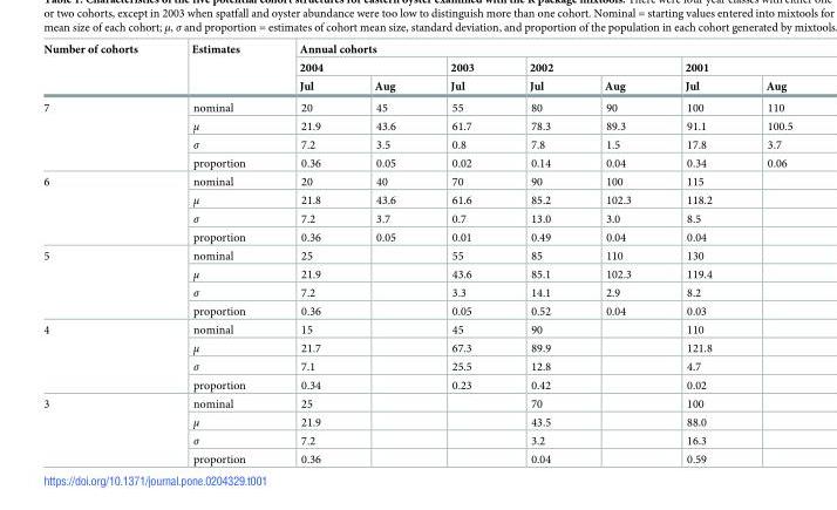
<table><thead><tr><td rowspan="3">Number of cohorts</td><td rowspan="3">Estimates</td><td colspan="7">Annual cohorts</td></tr><tr><td colspan="2">2004</td><td rowspan="2">2003 Jul</td><td colspan="2">2002</td><td colspan="2">2001</td></tr><tr><td>Jul</td><td>Aug</td><td>Jul</td><td>Aug</td><td>Jul</td><td>Aug</td></tr></thead><tbody><tr><td rowspan="4">7</td><td>nominal</td><td>20</td><td>45</td><td>55</td><td>80</td><td>90</td><td>100</td><td>110</td></tr><tr><td>μ</td><td>21.9</td><td>43.6</td><td>61.7</td><td>78.3</td><td>89.3</td><td>91.1</td><td>100.5</td></tr><tr><td>σ</td><td>7.2</td><td>3.5</td><td>0.8</td><td>7.8</td><td>1.5</td><td>17.8</td><td>3.7</td></tr><tr><td>proportion</td><td>0.36</td><td>0.05</td><td>0.02</td><td>0.14</td><td>0.04</td><td>0.34</td><td>0.06</td></tr><tr><td rowspan="4">6</td><td>nominal</td><td>20</td><td>40</td><td>70</td><td>90</td><td>100</td><td>115</td><td></td></tr><tr><td>μ</td><td>21.8</td><td>43.6</td><td>61.6</td><td>85.2</td><td>102.3</td><td>118.2</td><td></td></tr><tr><td>σ</td><td>7.2</td><td>3.7</td><td>0.7</td><td>13.0</td><td>3.0</td><td>8.5</td><td></td></tr><tr><td>proportion</td><td>0.36</td><td>0.05</td><td>0.01</td><td>0.49</td><td>0.04</td><td>0.04</td><td></td></tr><tr><td rowspan="4">5</td><td>nominal</td><td>25</td><td></td><td>55</td><td>85</td><td>110</td><td>130</td><td></td></tr><tr><td>μ</td><td>21.9</td><td></td><td>43.6</td><td>85.1</td><td>102.3</td><td>119.4</td><td></td></tr><tr><td>σ</td><td>7.2</td><td></td><td>3.3</td><td>14.1</td><td>2.9</td><td>8.2</td><td></td></tr><tr><td>proportion</td><td>0.36</td><td></td><td>0.05</td><td>0.52</td><td>0.04</td><td>0.03</td><td></td></tr><tr><td rowspan="4">4</td><td>nominal</td><td>15</td><td></td><td>45</td><td>90</td><td></td><td>110</td><td></td></tr><tr><td>μ</td><td>21.7</td><td></td><td>67.3</td><td>89.9</td><td></td><td>121.8</td><td></td></tr><tr><td>σ</td><td>7.1</td><td></td><td>25.5</td><td>12.8</td><td></td><td>4.7</td><td></td></tr><tr><td>proportion</td><td>0.34</td><td></td><td>0.23</td><td>0.42</td><td></td><td>0.02</td><td></td></tr><tr><td rowspan="4">3</td><td>nominal</td><td>25</td><td></td><td></td><td>70</td><td></td><td>100</td><td></td></tr><tr><td>μ</td><td>21.9</td><td></td><td></td><td>43.5</td><td></td><td>88.0</td><td></td></tr><tr><td>σ</td><td>7.2</td><td></td><td></td><td>3.2</td><td></td><td>16.3</td><td></td></tr><tr><td>proportion</td><td>0.36</td><td></td><td></td><td>0.04</td><td></td><td>0.59</td><td></td></tr></tbody></table>